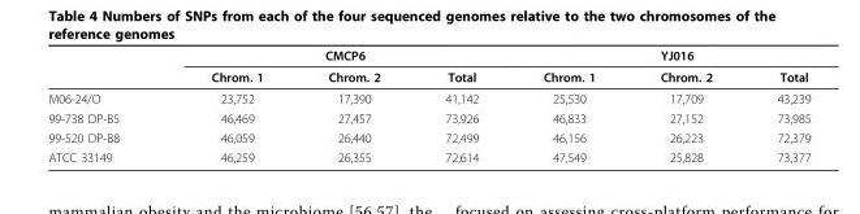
<table><thead><tr><td rowspan="2"></td><td colspan="3">CMCP6</td><td colspan="3">YJ016</td></tr><tr><td>Chrom. 1</td><td>Chrom. 2</td><td>Total</td><td>Chrom. 1</td><td>Chrom. 2</td><td>Total</td></tr></thead><tbody><tr><td>M06-24/O</td><td>23,752</td><td>17,390</td><td>41,142</td><td>25,530</td><td>17,709</td><td>43,239</td></tr><tr><td>99-738 DP-B5</td><td>46,469</td><td>27,457</td><td>73,926</td><td>46,833</td><td>27,152</td><td>73,985</td></tr><tr><td>99-520 DP-B8</td><td>46,059</td><td>26,440</td><td>72,499</td><td>46,156</td><td>26,223</td><td>72,379</td></tr><tr><td>ATCC 33149</td><td>46,259</td><td>26,355</td><td>72,614</td><td>47,549</td><td>25,828</td><td>73,377</td></tr></tbody></table>